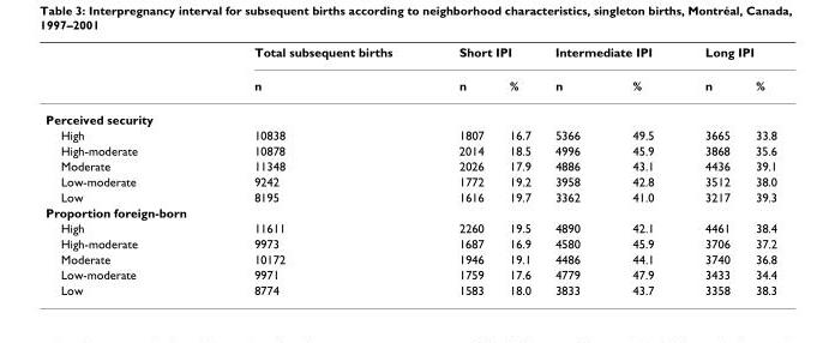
<table><thead><tr><td rowspan="2"></td><td rowspan="2">Total subsequent births n</td><td colspan="2">Short IPI</td><td colspan="2">Intermediate IPI</td><td colspan="2">Long IPI</td></tr><tr><td>n</td><td>%</td><td>n</td><td>%</td><td>n</td><td>%</td></tr></thead><tbody><tr><td colspan="8">Perceived security</td></tr><tr><td>High</td><td>10838</td><td>1807</td><td>16.7</td><td>5366</td><td>49.5</td><td>3665</td><td>33.8</td></tr><tr><td>High-moderate</td><td>10878</td><td>2014</td><td>18.5</td><td>4996</td><td>45.9</td><td>3868</td><td>35.6</td></tr><tr><td>Moderate</td><td>11348</td><td>2026</td><td>17.9</td><td>4886</td><td>43.1</td><td>4436</td><td>39.1</td></tr><tr><td>Low-moderate</td><td>9242</td><td>1772</td><td>19.2</td><td>3958</td><td>42.8</td><td>3512</td><td>38.0</td></tr><tr><td>Low</td><td>8195</td><td>1616</td><td>19.7</td><td>3362</td><td>41.0</td><td>3217</td><td>39.3</td></tr><tr><td colspan="8">Proportion foreign-born</td></tr><tr><td>High</td><td>11611</td><td>2260</td><td>19.5</td><td>4890</td><td>42.1</td><td>4461</td><td>38.4</td></tr><tr><td>High-moderate</td><td>9973</td><td>1687</td><td>16.9</td><td>4580</td><td>45.9</td><td>3706</td><td>37.2</td></tr><tr><td>Moderate</td><td>10172</td><td>1946</td><td>19.1</td><td>4486</td><td>44.1</td><td>3740</td><td>36.8</td></tr><tr><td>Low-moderate</td><td>9971</td><td>1759</td><td>17.6</td><td>4779</td><td>47.9</td><td>3433</td><td>34.4</td></tr><tr><td>Low</td><td>8774</td><td>1583</td><td>18.0</td><td>3833</td><td>43.7</td><td>3358</td><td>38.3</td></tr></tbody></table>